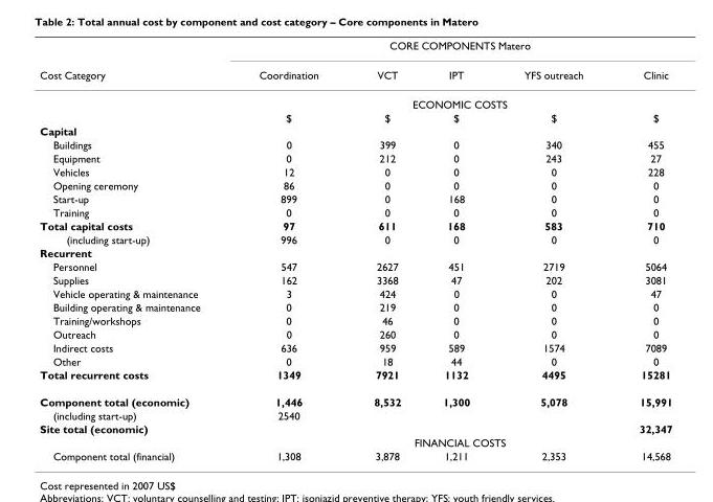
<table><thead><tr><td rowspan="2">Cost Category</td><td colspan="5">CORE COMPONENTS Matero</td></tr><tr><td>Coordination</td><td>VCT</td><td>IPT</td><td>YFS outreach</td><td>Clinic</td></tr></thead><tbody><tr><td></td><td colspan="5">ECONOMIC COSTS</td></tr><tr><td></td><td>$</td><td>$</td><td>$</td><td>$</td><td>$</td></tr><tr><td colspan="6">Capital</td></tr><tr><td>Buildings</td><td>0</td><td>399</td><td>0</td><td>340</td><td>455</td></tr><tr><td>Equipment</td><td>0</td><td>212</td><td>0</td><td>243</td><td>27</td></tr><tr><td>Vehicles</td><td>12</td><td>0</td><td>0</td><td>0</td><td>228</td></tr><tr><td>Opening ceremony</td><td>86</td><td>0</td><td>0</td><td>0</td><td>0</td></tr><tr><td>Start-up</td><td>899</td><td>0</td><td>168</td><td>0</td><td>0</td></tr><tr><td>Training</td><td>0</td><td>0</td><td>0</td><td>0</td><td>0</td></tr><tr><td>Total capital costs</td><td>97</td><td>611</td><td>168</td><td>583</td><td>710</td></tr><tr><td>(including start-up)</td><td>996</td><td>0</td><td>0</td><td>0</td><td>0</td></tr><tr><td colspan="6">Recurrent</td></tr><tr><td>Personnel</td><td>547</td><td>2627</td><td>451</td><td>2719</td><td>5064</td></tr><tr><td>Supplies</td><td>162</td><td>3368</td><td>47</td><td>202</td><td>3081</td></tr><tr><td>Vehicle operating &amp; maintenance</td><td>3</td><td>424</td><td>0</td><td>0</td><td>47</td></tr><tr><td>Building operating &amp; maintenance</td><td>0</td><td>219</td><td>0</td><td>0</td><td>0</td></tr><tr><td>Training/workshops</td><td>0</td><td>46</td><td>0</td><td>0</td><td>0</td></tr><tr><td>Outreach</td><td>0</td><td>260</td><td>0</td><td>0</td><td>0</td></tr><tr><td>Indirect costs</td><td>636</td><td>959</td><td>589</td><td>1574</td><td>7089</td></tr><tr><td>Other</td><td>0</td><td>18</td><td>44</td><td>0</td><td>0</td></tr><tr><td>Total recurrent costs</td><td>1349</td><td>7921</td><td>1132</td><td>4495</td><td>15281</td></tr><tr><td>Component total (economic)</td><td>1,446</td><td>8,532</td><td>1,300</td><td>5,078</td><td>15,991</td></tr><tr><td>(including start-up)</td><td>2540</td><td></td><td></td><td></td><td></td></tr><tr><td rowspan="2">Site total (economic)</td><td></td><td></td><td></td><td></td><td>32,347</td></tr><tr><td colspan="5">FINANCIAL COSTS</td></tr><tr><td>Component total (financial)</td><td>1,308</td><td>3,878</td><td>1,211</td><td>2,353</td><td>14,568</td></tr></tbody></table>